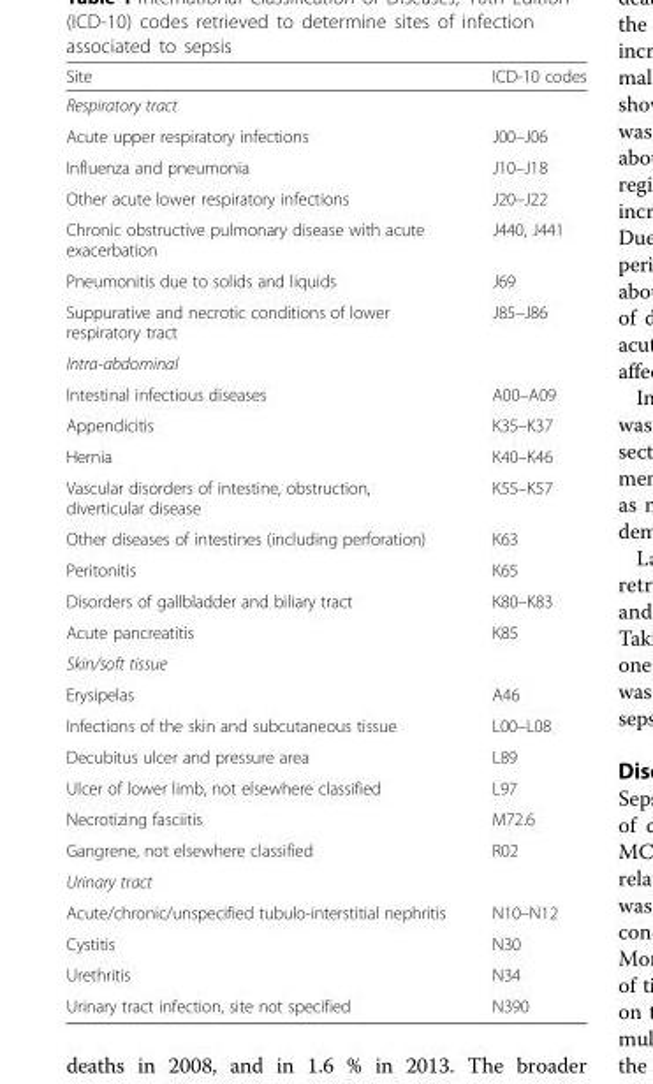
<table><thead><tr><td>Site</td><td>ICD-10 codes</td></tr></thead><tbody><tr><td colspan="2">Respiratory tract</td></tr><tr><td>Acute upper respiratory infections</td><td>J00–J06</td></tr><tr><td>Influenza and pneumonia</td><td>J10–J18</td></tr><tr><td>Other acute lower respiratory infections</td><td>J20–J22</td></tr><tr><td>Chronic obstructive pulmonary disease with acute exacerbation</td><td>J440, J441</td></tr><tr><td>Pneumonitis due to solids and liquids</td><td>J69</td></tr><tr><td>Suppurative and necrotic conditions of lower respiratory tract</td><td>J85–J86</td></tr><tr><td colspan="2">Intra-abdominal</td></tr><tr><td>Intestinal infectious diseases</td><td>A00–A09</td></tr><tr><td>Appendicitis</td><td>K35–K37</td></tr><tr><td>Hernia</td><td>K40–K46</td></tr><tr><td>Vascular disorders of intestine, obstruction, diverticular disease</td><td>K55–K57</td></tr><tr><td>Other diseases of intestines (including perforation)</td><td>K63</td></tr><tr><td>Peritonitis</td><td>K65</td></tr><tr><td>Disorders of gallbladder and biliary tract</td><td>K80–K83</td></tr><tr><td>Acute pancreatitis</td><td>K85</td></tr><tr><td colspan="2">Skin/soft tissue</td></tr><tr><td>Erysipelas</td><td>A46</td></tr><tr><td>Infections of the skin and subcutaneous tissue</td><td>L00–L08</td></tr><tr><td>Decubitus ulcer and pressure area</td><td>L89</td></tr><tr><td>Ulcer of lower limb, not elsewhere classified</td><td>L97</td></tr><tr><td>Necrotizing fasciitis</td><td>M72.6</td></tr><tr><td>Gangrene, not elsewhere classified</td><td>R02</td></tr><tr><td colspan="2">Urinary tract</td></tr><tr><td>Acute/chronic/unspecified tubulo-interstitial nephritis</td><td>N10–N12</td></tr><tr><td>Cystitis</td><td>N30</td></tr><tr><td>Urethritis</td><td>N34</td></tr><tr><td>Urinary tract infection, site not specified</td><td>N390</td></tr></tbody></table>